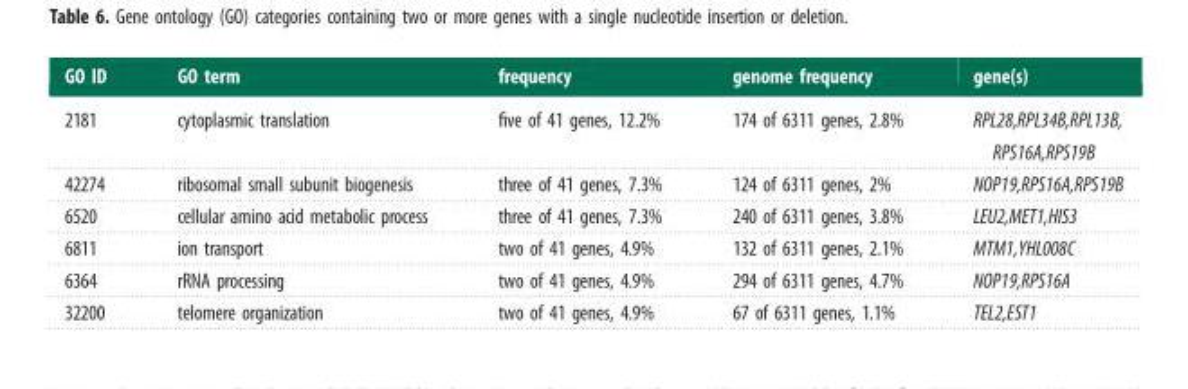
<table><thead><tr><td>GO ID</td><td>GO term</td><td>frequency</td><td>genome frequency</td><td>gene(s)</td></tr></thead><tbody><tr><td>2181</td><td>cytoplasmic translation</td><td>five of 41 genes, 12.2%</td><td>174 of 6311 genes, 2.8%</td><td>RPL28,RPL34B,RPL13B, RPS16A,RPS19B</td></tr><tr><td>42274</td><td>ribosomal small subunit biogenesis</td><td>three of 41 genes, 7.3%</td><td>124 of 6311 genes, 2%</td><td>NOP19,RPS16A,RPS19B</td></tr><tr><td>6520</td><td>cellular amino acid metabolic process</td><td>three of 41 genes, 7.3%</td><td>240 of 6311 genes, 3.8%</td><td>LEU2,MET1,HIS3</td></tr><tr><td>6811</td><td>ion transport</td><td>two of 41 genes, 4.9%</td><td>132 of 6311 genes, 2.1%</td><td>MTM1,YHL008C</td></tr><tr><td>6364</td><td>rRNA processing</td><td>two of 41 genes, 4.9%</td><td>294 of 6311 genes, 4.7%</td><td>NOP19,RPS16A</td></tr><tr><td>32200</td><td>telomere organization</td><td>two of 41 genes, 4.9%</td><td>67 of 6311 genes, 1.1%</td><td>TEL2,EST1</td></tr></tbody></table>